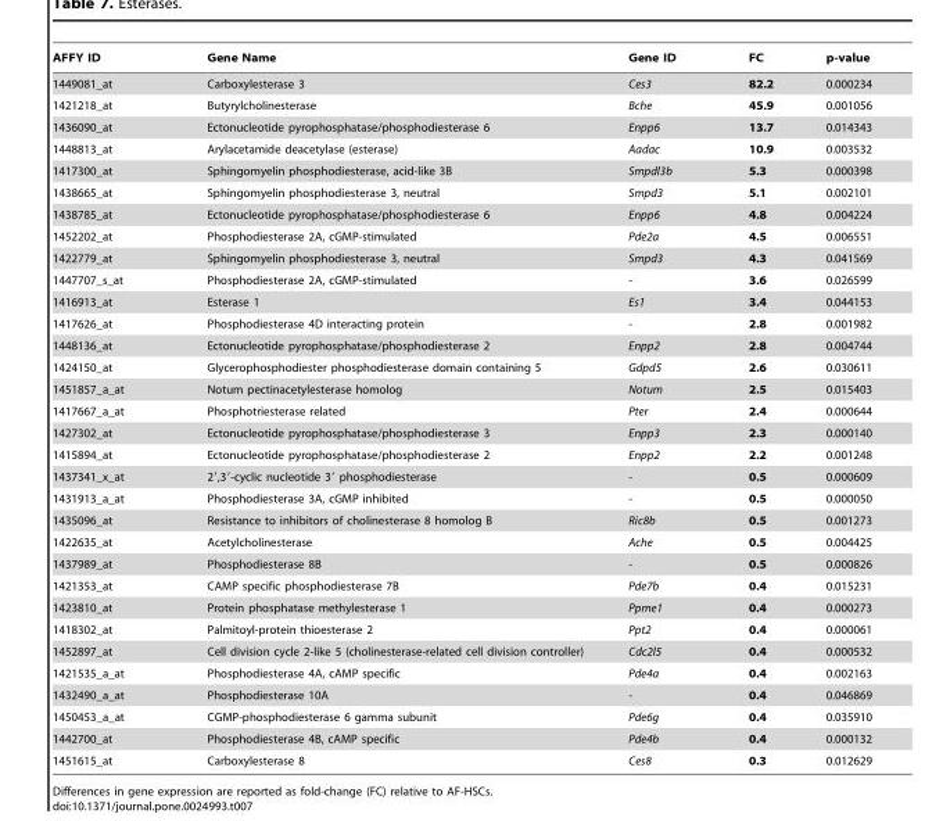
<table><thead><tr><td>AFFY ID</td><td>Gene Name</td><td>Gene ID</td><td>FC</td><td>p-value</td></tr></thead><tbody><tr><td>1449081_at</td><td>Carboxylesterase 3</td><td>Ces3</td><td>82.2</td><td>0.000234</td></tr><tr><td>1421218_at</td><td>Butyrylcholinesterase</td><td>Bche</td><td>45.9</td><td>0.001056</td></tr><tr><td>1436090_at</td><td>Ectonucleotide pyrophosphatase/phosphodiesterase 6</td><td>Enpp6</td><td>13.7</td><td>0.014343</td></tr><tr><td>1448813_at</td><td>Arylacetamide deacetylase (esterase)</td><td>Aadac</td><td>10.9</td><td>0.003532</td></tr><tr><td>1417300_at</td><td>Sphingomyelin phosphodiesterase, acid-like 3B</td><td>Smpdl3b</td><td>5.3</td><td>0.000398</td></tr><tr><td>1438665_at</td><td>Sphingomyelin phosphodiesterase 3, neutral</td><td>Smpd3</td><td>5.1</td><td>0.002101</td></tr><tr><td>1438785_at</td><td>Ectonucleotide pyrophosphatase/phosphodiesterase 6</td><td>Enpp6</td><td>4.8</td><td>0.004224</td></tr><tr><td>1452202_at</td><td>Phosphodiesterase 2A, cGMP-stimulated</td><td>Pde2a</td><td>4.5</td><td>0.006551</td></tr><tr><td>1422779_at</td><td>Sphingomyelin phosphodiesterase 3, neutral</td><td>Smpd3</td><td>4.3</td><td>0.041569</td></tr><tr><td>1447707_s_at</td><td>Phosphodiesterase 2A, cGMP-stimulated</td><td>-</td><td>3.6</td><td>0.026599</td></tr><tr><td>1416913_at</td><td>Esterase 1</td><td>Es1</td><td>3.4</td><td>0.044153</td></tr><tr><td>1417626_at</td><td>Phosphodiesterase 4D interacting protein</td><td>-</td><td>2.8</td><td>0.001982</td></tr><tr><td>1448136_at</td><td>Ectonucleotide pyrophosphatase/phosphodiesterase 2</td><td>Enpp2</td><td>2.8</td><td>0.004744</td></tr><tr><td>1424150_at</td><td>Glycerophosphodiester phosphodiesterase domain containing 5</td><td>Gdpd5</td><td>2.6</td><td>0.030611</td></tr><tr><td>1451857_a_at</td><td>Notum pectinacetylesterase homolog</td><td>Notum</td><td>2.5</td><td>0.015403</td></tr><tr><td>1417667_a_at</td><td>Phosphotriesterase related</td><td>Pter</td><td>2.4</td><td>0.000644</td></tr><tr><td>1427302_at</td><td>Ectonucleotide pyrophosphatase/phosphodiesterase 3</td><td>Enpp3</td><td>2.3</td><td>0.000140</td></tr><tr><td>1415894_at</td><td>Ectonucleotide pyrophosphatase/phosphodiesterase 2</td><td>Enpp2</td><td>2.2</td><td>0.001248</td></tr><tr><td>1437341_x_at</td><td>2′,3′-cyclic nucleotide 3′ phosphodiesterase</td><td>-</td><td>0.5</td><td>0.000609</td></tr><tr><td>1431913_a_at</td><td>Phosphodiesterase 3A, cGMP inhibited</td><td>-</td><td>0.5</td><td>0.000050</td></tr><tr><td>1435096_at</td><td>Resistance to inhibitors of cholinesterase 8 homolog B</td><td>Ric8b</td><td>0.5</td><td>0.001273</td></tr><tr><td>1422635_at</td><td>Acetylcholinesterase</td><td>Ache</td><td>0.5</td><td>0.004425</td></tr><tr><td>1437989_at</td><td>Phosphodiesterase 8B</td><td>-</td><td>0.5</td><td>0.000826</td></tr><tr><td>1421353_at</td><td>CAMP specific phosphodiesterase 7B</td><td>Pde7b</td><td>0.4</td><td>0.015231</td></tr><tr><td>1423810_at</td><td>Protein phosphatase methylesterase 1</td><td>Ppme1</td><td>0.4</td><td>0.000273</td></tr><tr><td>1418302_at</td><td>Palmitoyl-protein thioesterase 2</td><td>Ppt2</td><td>0.4</td><td>0.000061</td></tr><tr><td>1452897_at</td><td>Cell division cycle 2-like 5 (cholinesterase-related cell division controller)</td><td>Cdc2l5</td><td>0.4</td><td>0.000532</td></tr><tr><td>1421535_a_at</td><td>Phosphodiesterase 4A, cAMP specific</td><td>Pde4a</td><td>0.4</td><td>0.002163</td></tr><tr><td>1432490_a_at</td><td>Phosphodiesterase 10A</td><td>-</td><td>0.4</td><td>0.046869</td></tr><tr><td>1450453_a_at</td><td>CGMP-phosphodiesterase 6 gamma subunit</td><td>Pde6g</td><td>0.4</td><td>0.035910</td></tr><tr><td>1442700_at</td><td>Phosphodiesterase 4B, cAMP specific</td><td>Pde4b</td><td>0.4</td><td>0.000132</td></tr><tr><td>1451615_at</td><td>Carboxylesterase 8</td><td>Ces8</td><td>0.3</td><td>0.012629</td></tr></tbody></table>